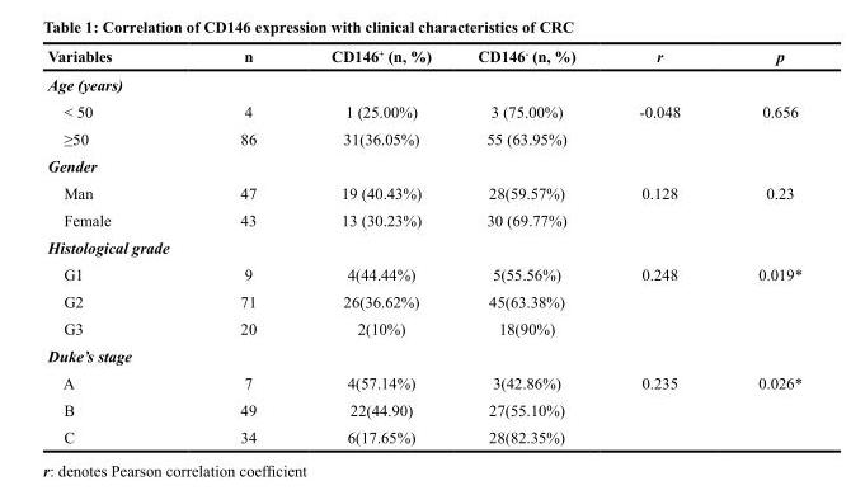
<table><thead><tr><td>Variables</td><td>n</td><td>CD146<sup>+</sup> (n, %)</td><td>CD146<sup>-</sup> (n, %)</td><td>r</td><td>p</td></tr></thead><tbody><tr><td colspan="6">Age (years)</td></tr><tr><td>&lt; 50</td><td>4</td><td>1 (25.00%)</td><td>3 (75.00%)</td><td>-0.048</td><td>0.656</td></tr><tr><td>≥50</td><td>86</td><td>31(36.05%)</td><td>55 (63.95%)</td><td></td><td></td></tr><tr><td colspan="6">Gender</td></tr><tr><td>Man</td><td>47</td><td>19 (40.43%)</td><td>28(59.57%)</td><td>0.128</td><td>0.23</td></tr><tr><td>Female</td><td>43</td><td>13 (30.23%)</td><td>30 (69.77%)</td><td></td><td></td></tr><tr><td colspan="6">Histological grade</td></tr><tr><td>G1</td><td>9</td><td>4(44.44%)</td><td>5(55.56%)</td><td>0.248</td><td>0.019*</td></tr><tr><td>G2</td><td>71</td><td>26(36.62%)</td><td>45(63.38%)</td><td></td><td></td></tr><tr><td>G3</td><td>20</td><td>2(10%)</td><td>18(90%)</td><td></td><td></td></tr><tr><td colspan="6">Duke’s stage</td></tr><tr><td>A</td><td>7</td><td>4(57.14%)</td><td>3(42.86%)</td><td>0.235</td><td>0.026*</td></tr><tr><td>B</td><td>49</td><td>22(44.90)</td><td>27(55.10%)</td><td></td><td></td></tr><tr><td>C</td><td>34</td><td>6(17.65%)</td><td>28(82.35%)</td><td></td><td></td></tr></tbody></table>